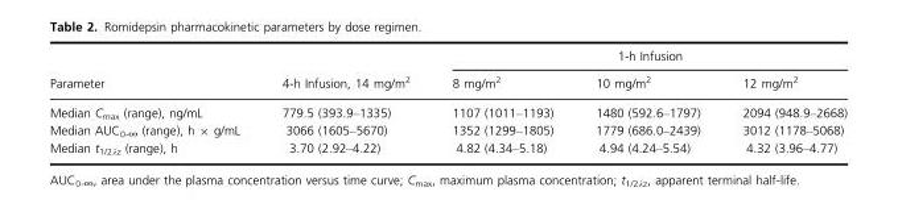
<table><thead><tr><td rowspan="2">Parameter</td><td rowspan="2">4-h Infusion, 14 mg/m<sup>2</sup></td><td colspan="3">1-h Infusion</td></tr><tr><td>8 mg/m<sup>2</sup></td><td>10 mg/m<sup>2</sup></td><td>12 mg/m<sup>2</sup></td></tr></thead><tbody><tr><td>Median C<sub>max</sub> (range), ng/mL</td><td>779.5 (393.9–1335)</td><td>1107 (1011–1193)</td><td>1480 (592.6–1797)</td><td>2094 (948.9–2668)</td></tr><tr><td>Median AUC<sub>0-∞</sub> (range), h × g/mL</td><td>3066 (1605–5670)</td><td>1352 (1299–1805)</td><td>1779 (686.0–2439)</td><td>3012 (1178–5068)</td></tr><tr><td>Median t<sub>1/2λz</sub> (range), h</td><td>3.70 (2.92–4.22)</td><td>4.82 (4.34–5.18)</td><td>4.94 (4.24–5.54)</td><td>4.32 (3.96–4.77)</td></tr></tbody></table>